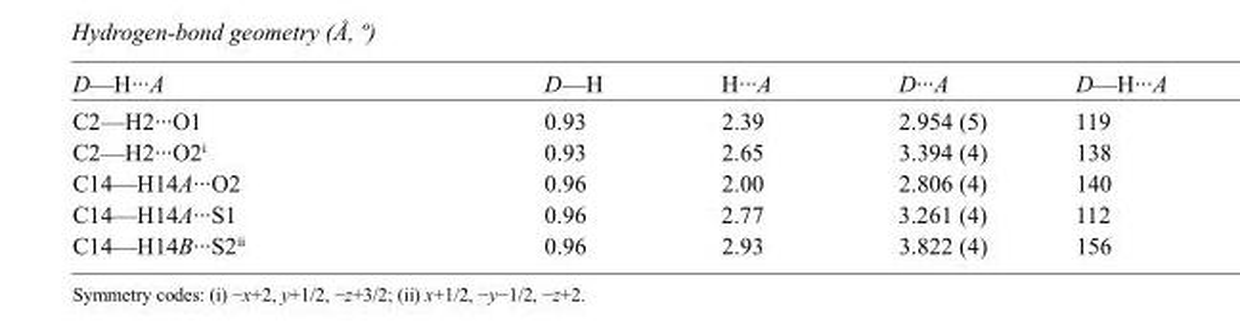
<table><tbody><tr><td>D—H···A</td><td>D—H</td><td>H···A</td><td>D···A</td><td>D—H···A</td></tr><tr><td>C2—H2···O1</td><td>0.93</td><td>2.39</td><td>2.954 (5)</td><td>119</td></tr><tr><td>C2—H2···O2<sup>i</sup></td><td>0.93</td><td>2.65</td><td>3.394 (4)</td><td>138</td></tr><tr><td>C14—H14A···O2</td><td>0.96</td><td>2.00</td><td>2.806 (4)</td><td>140</td></tr><tr><td>C14—H14A···S1</td><td>0.96</td><td>2.77</td><td>3.261 (4)</td><td>112</td></tr><tr><td>C14—H14B···S2<sup>ii</sup></td><td>0.96</td><td>2.93</td><td>3.822 (4)</td><td>156</td></tr></tbody></table>